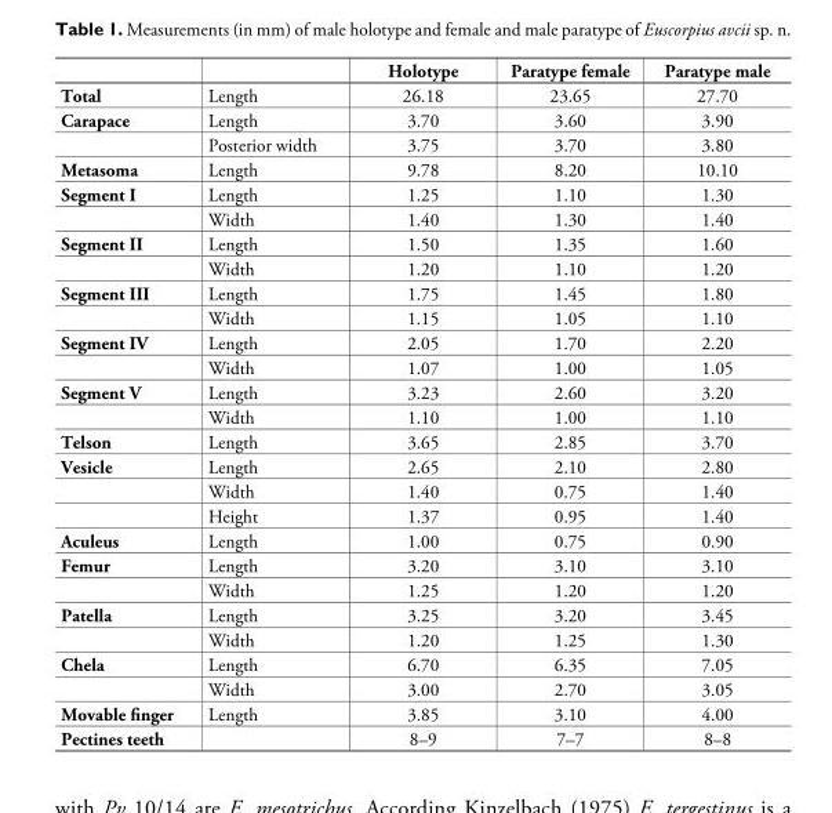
<table><thead><tr><td></td><td></td><td>Holotype</td><td>Paratype female</td><td>Paratype male</td></tr></thead><tbody><tr><td>Total</td><td>Length</td><td>26.18</td><td>23.65</td><td>27.70</td></tr><tr><td rowspan="2">Carapace</td><td>Length</td><td>3.70</td><td>3.60</td><td>3.90</td></tr><tr><td>Posterior width</td><td>3.75</td><td>3.70</td><td>3.80</td></tr><tr><td>Metasoma</td><td>Length</td><td>9.78</td><td>8.20</td><td>10.10</td></tr><tr><td rowspan="2">Segment I</td><td>Length</td><td>1.25</td><td>1.10</td><td>1.30</td></tr><tr><td>Width</td><td>1.40</td><td>1.30</td><td>1.40</td></tr><tr><td rowspan="2">Segment II</td><td>Length</td><td>1.50</td><td>1.35</td><td>1.60</td></tr><tr><td>Width</td><td>1.20</td><td>1.10</td><td>1.20</td></tr><tr><td rowspan="2">Segment III</td><td>Length</td><td>1.75</td><td>1.45</td><td>1.80</td></tr><tr><td>Width</td><td>1.15</td><td>1.05</td><td>1.10</td></tr><tr><td rowspan="2">Segment IV</td><td>Length</td><td>2.05</td><td>1.70</td><td>2.20</td></tr><tr><td>Width</td><td>1.07</td><td>1.00</td><td>1.05</td></tr><tr><td rowspan="2">Segment V</td><td>Length</td><td>3.23</td><td>2.60</td><td>3.20</td></tr><tr><td>Width</td><td>1.10</td><td>1.00</td><td>1.10</td></tr><tr><td>Telson</td><td>Length</td><td>3.65</td><td>2.85</td><td>3.70</td></tr><tr><td rowspan="3">Vesicle</td><td>Length</td><td>2.65</td><td>2.10</td><td>2.80</td></tr><tr><td>Width</td><td>1.40</td><td>0.75</td><td>1.40</td></tr><tr><td>Height</td><td>1.37</td><td>0.95</td><td>1.40</td></tr><tr><td>Aculeus</td><td>Length</td><td>1.00</td><td>0.75</td><td>0.90</td></tr><tr><td rowspan="2">Femur</td><td>Length</td><td>3.20</td><td>3.10</td><td>3.10</td></tr><tr><td>Width</td><td>1.25</td><td>1.20</td><td>1.20</td></tr><tr><td rowspan="2">Patella</td><td>Length</td><td>3.25</td><td>3.20</td><td>3.45</td></tr><tr><td>Width</td><td>1.20</td><td>1.25</td><td>1.30</td></tr><tr><td rowspan="2">Chela</td><td>Length</td><td>6.70</td><td>6.35</td><td>7.05</td></tr><tr><td>Width</td><td>3.00</td><td>2.70</td><td>3.05</td></tr><tr><td>Movable finger</td><td>Length</td><td>3.85</td><td>3.10</td><td>4.00</td></tr><tr><td>Pectines teeth</td><td></td><td>8–9</td><td>7–7</td><td>8–8</td></tr></tbody></table>